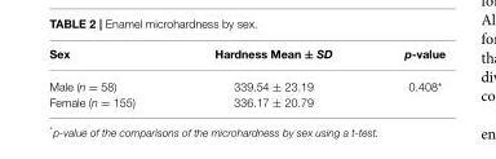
<table><thead><tr><td>Sex</td><td>Hardness Mean ± SD</td><td>p-value</td></tr></thead><tbody><tr><td>Male (n = 58) Female (n = 155)</td><td>339.54 ± 23.19 336.17 ± 20.79</td><td>0.408*</td></tr></tbody></table>